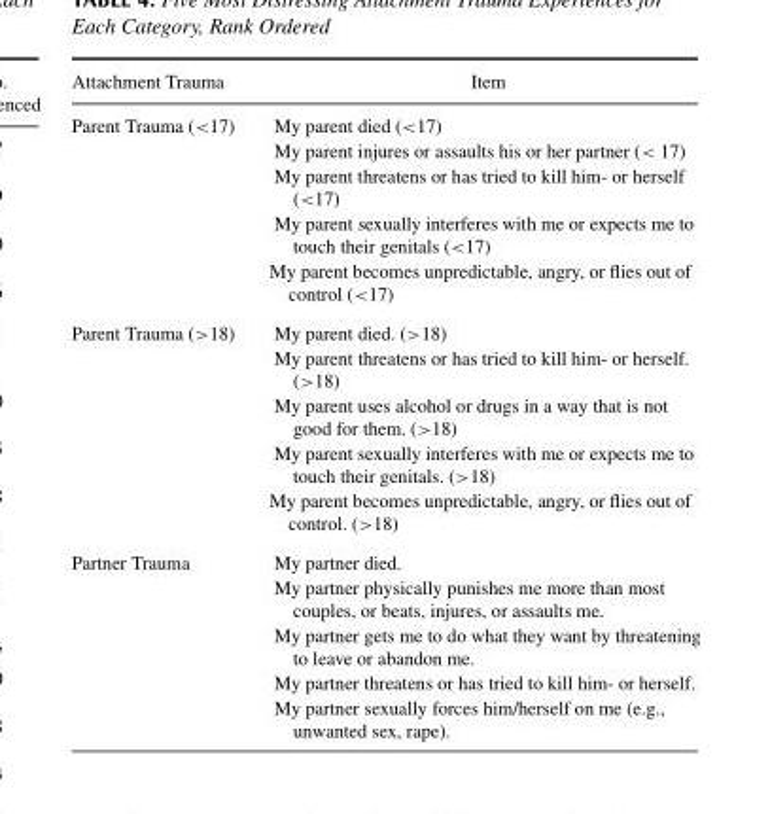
<table><thead><tr><td>Attachment Trauma</td><td>Item</td></tr></thead><tbody><tr><td rowspan="5">Parent Trauma (&lt;17)</td><td>My parent died (&lt;17)</td></tr><tr><td>My parent injures or assaults his or her partner (&lt; 17)</td></tr><tr><td>My parent threatens or has tried to kill him- or herself (&lt;17)</td></tr><tr><td>My parent sexually interferes with me or expects me to touch their genitals (&lt;17)</td></tr><tr><td>My parent becomes unpredictable, angry, or flies out of control (&lt;17)</td></tr><tr><td rowspan="5">Parent Trauma (&gt;18)</td><td>My parent died. (&gt;18)</td></tr><tr><td>My parent threatens or has tried to kill him- or herself. (&gt;18)</td></tr><tr><td>My parent uses alcohol or drugs in a way that is not good for them. (&gt;18)</td></tr><tr><td>My parent sexually interferes with me or expects me to touch their genitals. (&gt;18)</td></tr><tr><td>My parent becomes unpredictable, angry, or flies out of control. (&gt;18)</td></tr><tr><td rowspan="5">Partner Trauma</td><td>My partner died.</td></tr><tr><td>My partner physically punishes me more than most couples, or beats, injures, or assaults me.</td></tr><tr><td>My partner gets me to do what they want by threatening to leave or abandon me.</td></tr><tr><td>My partner threatens or has tried to kill him- or herself.</td></tr><tr><td>My partner sexually forces him/herself on me (e.g., unwanted sex, rape).</td></tr></tbody></table>